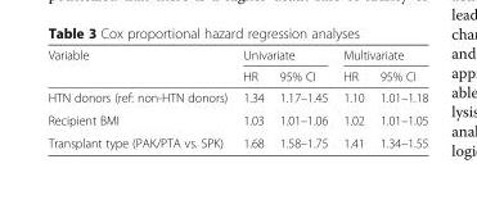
<table><thead><tr><td rowspan="2">Variable</td><td colspan="2">Univariate</td><td colspan="2">Multivariate</td></tr><tr><td>HR</td><td>95% CI</td><td>HR</td><td>95% CI</td></tr></thead><tbody><tr><td>HTN donors (ref: non-HTN donors)</td><td>1.34</td><td>1.17–1.45</td><td>1.10</td><td>1.01–1.18</td></tr><tr><td>Recipient BMI</td><td>1.03</td><td>1.01–1.06</td><td>1.02</td><td>1.01–1.05</td></tr><tr><td>Transplant type (PAK/PTA vs. SPK)</td><td>1.68</td><td>1.58–1.75</td><td>1.41</td><td>1.34–1.55</td></tr></tbody></table>